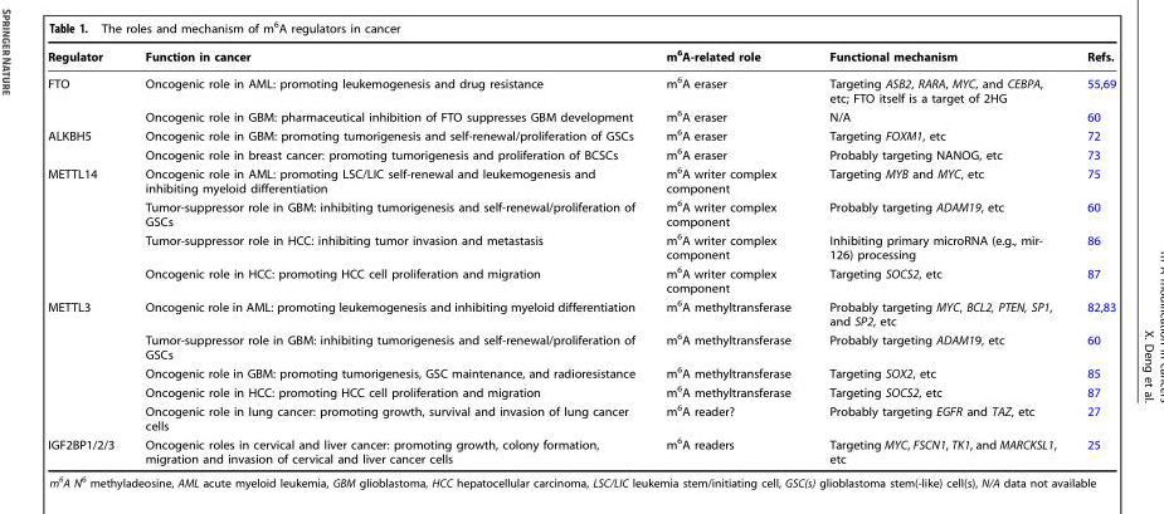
<table><thead><tr><td>Regulator</td><td>Function in cancer</td><td>m<sup>6</sup>A-related role</td><td>Functional mechanism</td><td>Refs.</td></tr></thead><tbody><tr><td rowspan="2">FTO</td><td>Oncogenic role in AML: promoting leukemogenesis and drug resistance</td><td>m<sup>6</sup>A eraser</td><td>Targeting ASB2, RARA, MYC, and CEBPA, etc; FTO itself is a target of 2HG</td><td>55,69</td></tr><tr><td>Oncogenic role in GBM: pharmaceutical inhibition of FTO suppresses GBM development</td><td>m<sup>6</sup>A eraser</td><td>N/A</td><td>60</td></tr><tr><td rowspan="2">ALKBH5</td><td>Oncogenic role in GBM: promoting tumorigenesis and self-renewal/proliferation of GSCs</td><td>m<sup>6</sup>A eraser</td><td>Targeting FOXM1, etc</td><td>72</td></tr><tr><td>Oncogenic role in breast cancer: promoting tumorigenesis and proliferation of BCSCs</td><td>m<sup>6</sup>A eraser</td><td>Probably targeting NANOG, etc</td><td>73</td></tr><tr><td rowspan="4">METTL14</td><td>Oncogenic role in AML: promoting LSC/LIC self-renewal and leukemogenesis and inhibiting myeloid differentiation</td><td>m<sup>6</sup>A writer complex component</td><td>Targeting MYB and MYC, etc</td><td>75</td></tr><tr><td>Tumor-suppressor role in GBM: inhibiting tumorigenesis and self-renewal/proliferation of GSCs</td><td>m<sup>6</sup>A writer complex component</td><td>Probably targeting ADAM19, etc</td><td>60</td></tr><tr><td>Tumor-suppressor role in HCC: inhibiting tumor invasion and metastasis</td><td>m<sup>6</sup>A writer complex component</td><td>Inhibiting primary microRNA (e.g., mir- 126) processing</td><td>86</td></tr><tr><td>Oncogenic role in HCC: promoting HCC cell proliferation and migration</td><td>m<sup>6</sup>A writer complex component</td><td>Targeting SOCS2, etc</td><td>87</td></tr><tr><td rowspan="5">METTL3</td><td>Oncogenic role in AML: promoting leukemogenesis and inhibiting myeloid differentiation</td><td>m<sup>6</sup>A methyltransferase</td><td>Probably targeting MYC, BCL2, PTEN, SP1, and SP2, etc</td><td>82,83</td></tr><tr><td>Tumor-suppressor role in GBM: inhibiting tumorigenesis and self-renewal/proliferation of GSCs</td><td>m<sup>6</sup>A methyltransferase</td><td>Probably targeting ADAM19, etc</td><td>60</td></tr><tr><td>Oncogenic role in GBM: promoting tumorigenesis, GSC maintenance, and radioresistance</td><td>m<sup>6</sup>A methyltransferase</td><td>Targeting SOX2, etc</td><td>85</td></tr><tr><td>Oncogenic role in HCC: promoting HCC cell proliferation and migration</td><td>m<sup>6</sup>A methyltransferase</td><td>Targeting SOCS2, etc</td><td>87</td></tr><tr><td>Oncogenic role in lung cancer: promoting growth, survival and invasion of lung cancer cells</td><td>m<sup>6</sup>A reader?</td><td>Probably targeting EGFR and TAZ, etc</td><td>27</td></tr><tr><td>IGF2BP1/2/3</td><td>Oncogenic roles in cervical and liver cancer: promoting growth, colony formation, migration and invasion of cervical and liver cancer cells</td><td>m<sup>6</sup>A readers</td><td>Targeting MYC, FSCN1, TK1, and MARCKSL1, etc</td><td>25</td></tr></tbody></table>